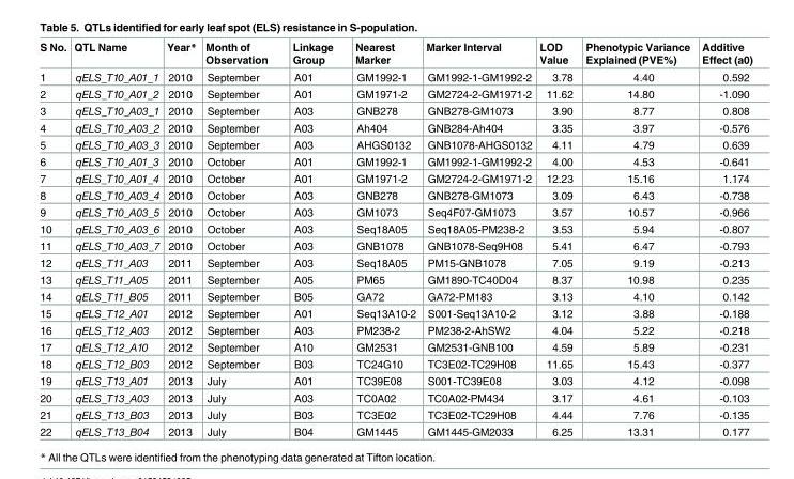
<table><thead><tr><td>S No.</td><td>QTL Name</td><td>Year*</td><td>Month of Observation</td><td>Linkage Group</td><td>Nearest Marker</td><td>Marker Interval</td><td>LOD Value</td><td>Phenotypic Variance Explained (PVE%)</td><td>Additive Effect (a0)</td></tr></thead><tbody><tr><td>1</td><td>qELS_T10_A01_1</td><td>2010</td><td>September</td><td>A01</td><td>GM1992-1</td><td>GM1992-1-GM1992-2</td><td>3.78</td><td>4.40</td><td>0.592</td></tr><tr><td>2</td><td>qELS_T10_A01_2</td><td>2010</td><td>September</td><td>A01</td><td>GM1971-2</td><td>GM2724-2-GM1971-2</td><td>11.62</td><td>14.80</td><td>-1.090</td></tr><tr><td>3</td><td>qELS_T10_A03_1</td><td>2010</td><td>September</td><td>A03</td><td>GNB278</td><td>GNB278-GM1073</td><td>3.90</td><td>8.77</td><td>0.808</td></tr><tr><td>4</td><td>qELS_T10_A03_2</td><td>2010</td><td>September</td><td>A03</td><td>Ah404</td><td>GNB284-Ah404</td><td>3.35</td><td>3.97</td><td>-0.576</td></tr><tr><td>5</td><td>qELS_T10_A03_3</td><td>2010</td><td>September</td><td>A03</td><td>AHGS0132</td><td>GNB1078-AHGS0132</td><td>4.11</td><td>4.79</td><td>0.639</td></tr><tr><td>6</td><td>qELS_T10_A01_3</td><td>2010</td><td>October</td><td>A01</td><td>GM1992-1</td><td>GM1992-1-GM1992-2</td><td>4.00</td><td>4.53</td><td>-0.641</td></tr><tr><td>7</td><td>qELS_T10_A01_4</td><td>2010</td><td>October</td><td>A01</td><td>GM1971-2</td><td>GM2724-2-GM1971-2</td><td>12.23</td><td>15.16</td><td>1.174</td></tr><tr><td>8</td><td>qELS_T10_A03_4</td><td>2010</td><td>October</td><td>A03</td><td>GNB278</td><td>GNB278-GM1073</td><td>3.09</td><td>6.43</td><td>-0.738</td></tr><tr><td>9</td><td>qELS_T10_A03_5</td><td>2010</td><td>October</td><td>A03</td><td>GM1073</td><td>Seq4F07-GM1073</td><td>3.57</td><td>10.57</td><td>-0.966</td></tr><tr><td>10</td><td>qELS_T10_A03_6</td><td>2010</td><td>October</td><td>A03</td><td>Seq18A05</td><td>Seq18A05-PM238-2</td><td>3.53</td><td>5.94</td><td>-0.807</td></tr><tr><td>11</td><td>qELS_T10_A03_7</td><td>2010</td><td>October</td><td>A03</td><td>GNB1078</td><td>GNB1078-Seq9H08</td><td>5.41</td><td>6.47</td><td>-0.793</td></tr><tr><td>12</td><td>qELS_T11_A03</td><td>2011</td><td>September</td><td>A03</td><td>Seq18A05</td><td>PM15-GNB1078</td><td>7.05</td><td>9.19</td><td>-0.213</td></tr><tr><td>13</td><td>qELS_T11_A05</td><td>2011</td><td>September</td><td>A05</td><td>PM65</td><td>GM1890-TC40D04</td><td>8.37</td><td>10.98</td><td>0.235</td></tr><tr><td>14</td><td>qELS_T11_B05</td><td>2011</td><td>September</td><td>B05</td><td>GA72</td><td>GA72-PM183</td><td>3.13</td><td>4.10</td><td>0.142</td></tr><tr><td>15</td><td>qELS_T12_A01</td><td>2012</td><td>September</td><td>A01</td><td>Seq13A10-2</td><td>S001-Seq13A10-2</td><td>3.12</td><td>3.88</td><td>-0.188</td></tr><tr><td>16</td><td>qELS_T12_A03</td><td>2012</td><td>September</td><td>A03</td><td>PM238-2</td><td>PM238-2-AhSW2</td><td>4.04</td><td>5.22</td><td>-0.218</td></tr><tr><td>17</td><td>qELS_T12_A10</td><td>2012</td><td>September</td><td>A10</td><td>GM2531</td><td>GM2531-GNB100</td><td>4.59</td><td>5.89</td><td>-0.231</td></tr><tr><td>18</td><td>qELS_T12_B03</td><td>2012</td><td>September</td><td>B03</td><td>TC24G10</td><td>TC3E02-TC29H08</td><td>11.65</td><td>15.43</td><td>-0.377</td></tr><tr><td>19</td><td>qELS_T13_A01</td><td>2013</td><td>July</td><td>A01</td><td>TC39E08</td><td>S001-TC39E08</td><td>3.03</td><td>4.12</td><td>-0.098</td></tr><tr><td>20</td><td>qELS_T13_A03</td><td>2013</td><td>July</td><td>A03</td><td>TC0A02</td><td>TC0A02-PM434</td><td>3.17</td><td>4.61</td><td>-0.103</td></tr><tr><td>21</td><td>qELS_T13_B03</td><td>2013</td><td>July</td><td>B03</td><td>TC3E02</td><td>TC3E02-TC29H08</td><td>4.44</td><td>7.76</td><td>-0.135</td></tr><tr><td>22</td><td>qELS_T13_B04</td><td>2013</td><td>July</td><td>B04</td><td>GM1445</td><td>GM1445-GM2033</td><td>6.25</td><td>13.31</td><td>0.177</td></tr></tbody></table>